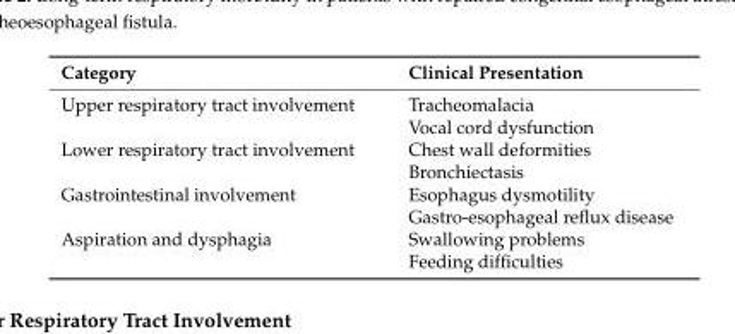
<table><thead><tr><td>Category</td><td>Clinical Presentation</td></tr></thead><tbody><tr><td rowspan="2">Upper respiratory tract involvement</td><td>Tracheomalacia</td></tr><tr><td>Vocal cord dysfunction</td></tr><tr><td rowspan="2">Lower respiratory tract involvement</td><td>Chest wall deformities</td></tr><tr><td>Bronchiectasis</td></tr><tr><td rowspan="2">Gastrointestinal involvement</td><td>Esophagus dysmotility</td></tr><tr><td>Gastro-esophageal reflux disease</td></tr><tr><td rowspan="2">Aspiration and dysphagia</td><td>Swallowing problems</td></tr><tr><td>Feeding difficulties</td></tr></tbody></table>